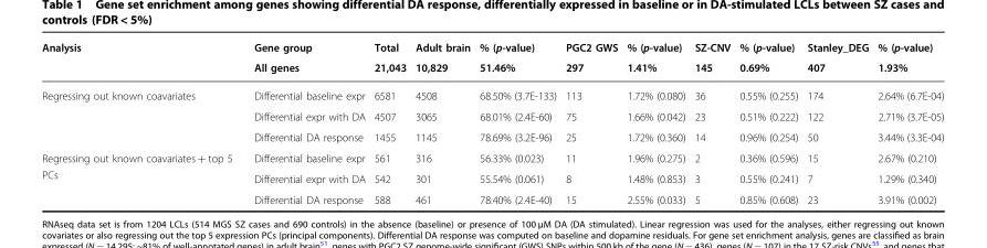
<table><thead><tr><td rowspan="2">Analysis</td><td rowspan="2">Gene group All genes</td><td rowspan="2">Total 21,043</td><td rowspan="2">Adult brain 10,829</td><td rowspan="2">% (p-value) 51.46%</td><td rowspan="2">PGC2 GWS 297</td><td rowspan="2">% (p-value) 1.41%</td><td rowspan="2">SZ-CNV 145</td><td rowspan="2">% (p-value) 0.69%</td><td rowspan="2">Stanley_DEG 407</td><td rowspan="2">% (p-value) 1.93%</td></tr><tr></tr></thead><tbody><tr><td rowspan="3">Regressing out known coavariates</td><td>Differential baseline expr</td><td>6581</td><td>4508</td><td>68.50% (3.7E-133)</td><td>113</td><td>1.72% (0.080)</td><td>36</td><td>0.55% (0.255)</td><td>174</td><td>2.64% (6.7E-04)</td></tr><tr><td>Differential expr with DA</td><td>4507</td><td>3065</td><td>68.01% (2.4E-60)</td><td>75</td><td>1.66% (0.042)</td><td>23</td><td>0.51% (0.222)</td><td>122</td><td>2.71% (3.7E-05)</td></tr><tr><td>Differential DA response</td><td>1455</td><td>1145</td><td>78.69% (3.2E-96)</td><td>25</td><td>1.72% (0.360)</td><td>14</td><td>0.96% (0.254)</td><td>50</td><td>3.44% (3.3E-04)</td></tr><tr><td rowspan="3">Regressing out known coavariates + top 5 PCs</td><td>Differential baseline expr</td><td>561</td><td>316</td><td>56.33% (0.023)</td><td>11</td><td>1.96% (0.275)</td><td>2</td><td>0.36% (0.596)</td><td>15</td><td>2.67% (0.210)</td></tr><tr><td>Differential expr with DA</td><td>542</td><td>301</td><td>55.54% (0.061)</td><td>8</td><td>1.48% (0.853)</td><td>3</td><td>0.55% (0.241)</td><td>7</td><td>1.29% (0.340)</td></tr><tr><td>Differential DA response</td><td>588</td><td>461</td><td>78.40% (2.4E-40)</td><td>15</td><td>2.55% (0.033)</td><td>5</td><td>0.85% (0.608)</td><td>23</td><td>3.91% (0.002)</td></tr></tbody></table>